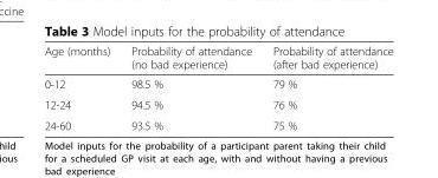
<table><thead><tr><td>Age (months)</td><td>Probability of attendance (no bad experience)</td><td>Probability of attendance (after bad experience)</td></tr></thead><tbody><tr><td>0-12</td><td>98.5 %</td><td>79 %</td></tr><tr><td>12-24</td><td>94.5 %</td><td>76 %</td></tr><tr><td>24-60</td><td>93.5 %</td><td>75 %</td></tr></tbody></table>